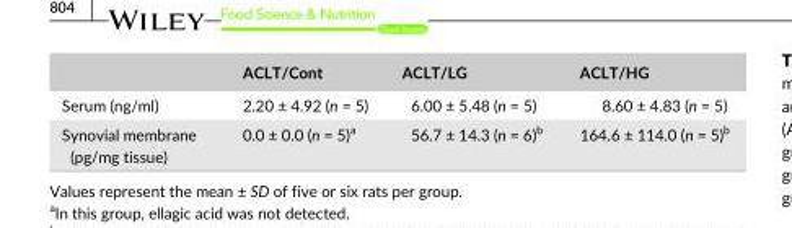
<table><thead><tr><td></td><td>ACLT/Cont</td><td>ACLT/LG</td><td>ACLT/HG</td></tr></thead><tbody><tr><td>Serum (ng/ml)</td><td>2.20 ± 4.92 (n = 5)</td><td>6.00 ± 5.48 (n = 5)</td><td>8.60 ± 4.83 (n = 5)</td></tr><tr><td>Synovial membrane (pg/mg tissue)</td><td>0.0 ± 0.0 (n = 5)<sup>a</sup></td><td>56.7 ± 14.3 (n = 6)<sup>b</sup></td><td>164.6 ± 114.0 (n = 5)<sup>b</sup></td></tr></tbody></table>